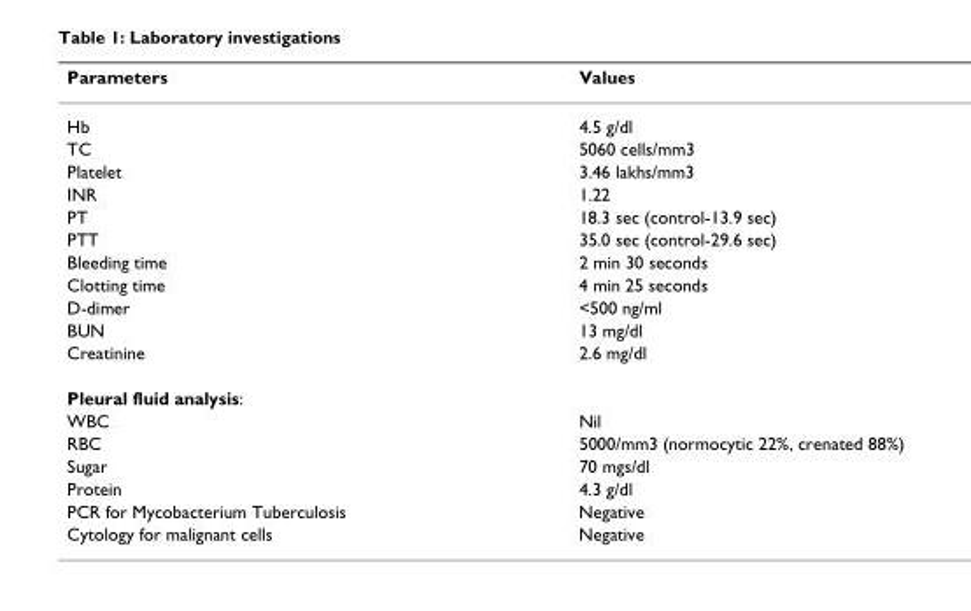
<table><thead><tr><td>Parameters</td><td>Values</td></tr></thead><tbody><tr><td>Hb</td><td>4.5 g/dl</td></tr><tr><td>TC</td><td>5060 cells/mm3</td></tr><tr><td>Platelet</td><td>3.46 lakhs/mm3</td></tr><tr><td>INR</td><td>1.22</td></tr><tr><td>PT</td><td>18.3 sec (control-13.9 sec)</td></tr><tr><td>PTT</td><td>35.0 sec (control-29.6 sec)</td></tr><tr><td>Bleeding time</td><td>2 min 30 seconds</td></tr><tr><td>Clotting time</td><td>4 min 25 seconds</td></tr><tr><td>D-dimer</td><td>&lt;500 ng/ml</td></tr><tr><td>BUN</td><td>13 mg/dl</td></tr><tr><td>Creatinine</td><td>2.6 mg/dl</td></tr><tr><td colspan="2">Pleural fluid analysis:</td></tr><tr><td>WBC</td><td>Nil</td></tr><tr><td>RBC</td><td>5000/mm3 (normocytic 22%, crenated 88%)</td></tr><tr><td>Sugar</td><td>70 mgs/dl</td></tr><tr><td>Protein</td><td>4.3 g/dl</td></tr><tr><td>PCR for Mycobacterium Tuberculosis</td><td>Negative</td></tr><tr><td>Cytology for malignant cells</td><td>Negative</td></tr></tbody></table>